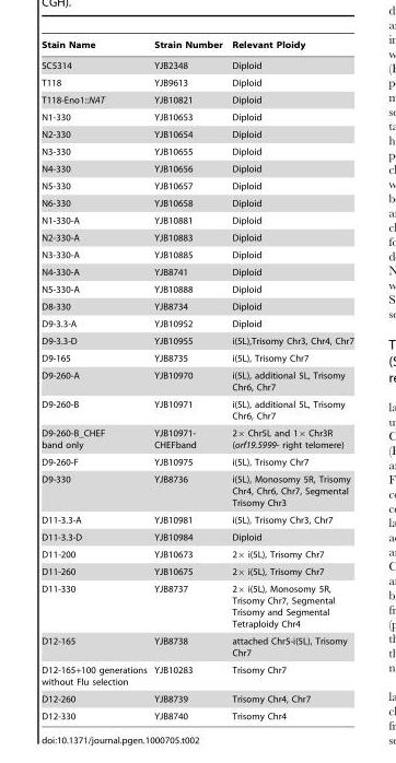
<table><thead><tr><td>Stain Name</td><td>Strain Number</td><td>Relevant Ploidy</td></tr></thead><tbody><tr><td>SC5314</td><td>YJB2348</td><td>Diploid</td></tr><tr><td>T118</td><td>YJB9613</td><td>Diploid</td></tr><tr><td>T118-Eno1::NAT</td><td>YJB10821</td><td>Diploid</td></tr><tr><td>N1-330</td><td>YJB10653</td><td>Diploid</td></tr><tr><td>N2-330</td><td>YJB10654</td><td>Diploid</td></tr><tr><td>N3-330</td><td>YJB10655</td><td>Diploid</td></tr><tr><td>N4-330</td><td>YJB10656</td><td>Diploid</td></tr><tr><td>N5-330</td><td>YJB10657</td><td>Diploid</td></tr><tr><td>N6-330</td><td>YJB10658</td><td>Diploid</td></tr><tr><td>N1-330-A</td><td>YJB10881</td><td>Diploid</td></tr><tr><td>N2-330-A</td><td>YJB10883</td><td>Diploid</td></tr><tr><td>N3-330-A</td><td>YJB10885</td><td>Diploid</td></tr><tr><td>N4-330-A</td><td>YJB8741</td><td>Diploid</td></tr><tr><td>N5-330-A</td><td>YJB10888</td><td>Diploid</td></tr><tr><td>D8-330</td><td>YJB8734</td><td>Diploid</td></tr><tr><td>D9-3.3-A</td><td>YJB10952</td><td>Diploid</td></tr><tr><td>D9-3.3-D</td><td>YJB10955</td><td>i(5L),Trisomy Chr3, Chr4, Chr7</td></tr><tr><td>D9-165</td><td>YJB8735</td><td>i(5L), Trisomy Chr7</td></tr><tr><td>D9-260-A</td><td>YJB10970</td><td>i(5L), additional 5L, Trisomy Chr6, Chr7</td></tr><tr><td>D9-260-B</td><td>YJB10971</td><td>i(5L), additional 5L, Trisomy Chr6, Chr7</td></tr><tr><td>D9-260-B_CHEF band only</td><td>YJB10971- CHEFband</td><td>2× Chr5L and 1× Chr3R (orf19.5999- right telomere)</td></tr><tr><td>D9-260-F</td><td>YJB10975</td><td>i(5L), Trisomy Chr7</td></tr><tr><td>D9-330</td><td>YJB8736</td><td>i(5L), Monosomy 5R, Trisomy Chr4, Chr6, Chr7, Segmental Trisomy Chr3</td></tr><tr><td>D11-3.3-A</td><td>YJB10981</td><td>i(5L), Trisomy Chr3, Chr7</td></tr><tr><td>D11-3.3-D</td><td>YJB10984</td><td>Diploid</td></tr><tr><td>D11-200</td><td>YJB10673</td><td>2× i(5L), Trisomy Chr7</td></tr><tr><td>D11-260</td><td>YJB10675</td><td>2× i(5L), Trisomy Chr7</td></tr><tr><td>D11-330</td><td>YJB8737</td><td>2× i(5L), Monosomy 5R, Trisomy Chr7, Segmental Trisomy and Segmental Tetraploidy Chr4</td></tr><tr><td>D12-165</td><td>YJB8738</td><td>attached Chr5-i(5L), Trisomy Chr7</td></tr><tr><td>D12-165+100 generations without Flu selection</td><td>YJB10283</td><td>Trisomy Chr7</td></tr><tr><td>D12-260</td><td>YJB8739</td><td>Trisomy Chr4, Chr7</td></tr><tr><td>D12-330</td><td>YJB8740</td><td>Trisomy Chr4</td></tr></tbody></table>